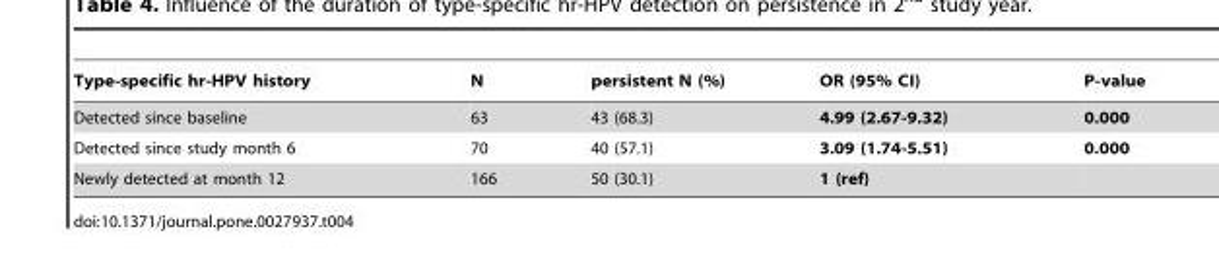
<table><thead><tr><td>Type-specific hr-HPV history</td><td>N</td><td>persistent N (%)</td><td>OR (95% CI)</td><td>P-value</td></tr></thead><tbody><tr><td>Detected since baseline</td><td>63</td><td>43 (68.3)</td><td>4.99 (2.67-9.32)</td><td>0.000</td></tr><tr><td>Detected since study month 6</td><td>70</td><td>40 (57.1)</td><td>3.09 (1.74-5.51)</td><td>0.000</td></tr><tr><td>Newly detected at month 12</td><td>166</td><td>50 (30.1)</td><td>1 (ref)</td><td></td></tr></tbody></table>